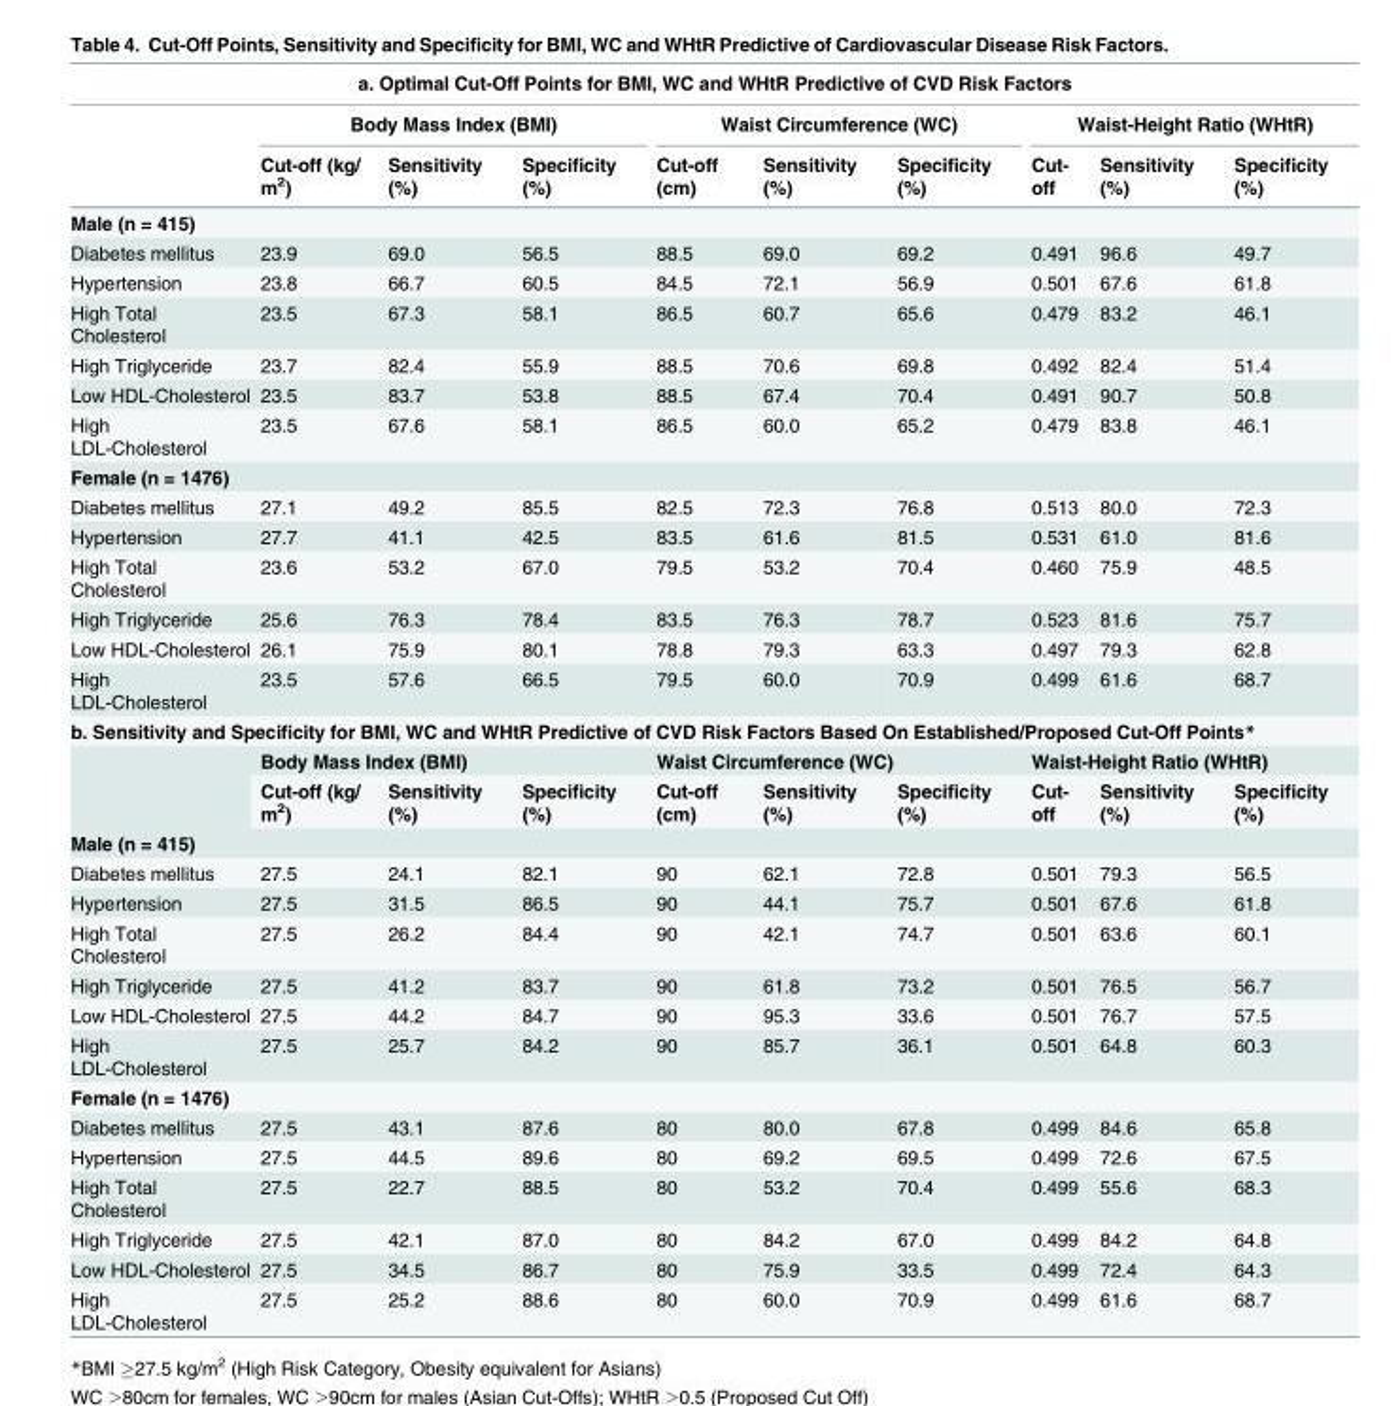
<table><thead><tr><td colspan="10">a. Optimal Cut-Off Points for BMI, WC and WHtR Predictive of CVD Risk Factors</td></tr><tr><td rowspan="2"></td><td colspan="3">Body Mass Index (BMI)</td><td colspan="3">Waist Circumference (WC)</td><td colspan="3">Waist-Height Ratio (WHtR)</td></tr><tr><td>Cut-off (kg/ m<sup>2</sup>)</td><td>Sensitivity (%)</td><td>Specificity (%)</td><td>Cut-off (cm)</td><td>Sensitivity (%)</td><td>Specificity (%)</td><td>Cut- off</td><td>Sensitivity (%)</td><td>Specificity (%)</td></tr></thead><tbody><tr><td colspan="10">Male (n = 415)</td></tr><tr><td>Diabetes mellitus</td><td>23.9</td><td>69.0</td><td>56.5</td><td>88.5</td><td>69.0</td><td>69.2</td><td>0.491</td><td>96.6</td><td>49.7</td></tr><tr><td>Hypertension</td><td>23.8</td><td>66.7</td><td>60.5</td><td>84.5</td><td>72.1</td><td>56.9</td><td>0.501</td><td>67.6</td><td>61.8</td></tr><tr><td>High Total Cholesterol</td><td>23.5</td><td>67.3</td><td>58.1</td><td>86.5</td><td>60.7</td><td>65.6</td><td>0.479</td><td>83.2</td><td>46.1</td></tr><tr><td>High Triglyceride</td><td>23.7</td><td>82.4</td><td>55.9</td><td>88.5</td><td>70.6</td><td>69.8</td><td>0.492</td><td>82.4</td><td>51.4</td></tr><tr><td>Low HDL-Cholesterol</td><td>23.5</td><td>83.7</td><td>53.8</td><td>88.5</td><td>67.4</td><td>70.4</td><td>0.491</td><td>90.7</td><td>50.8</td></tr><tr><td>High LDL-Cholesterol</td><td>23.5</td><td>67.6</td><td>58.1</td><td>86.5</td><td>60.0</td><td>65.2</td><td>0.479</td><td>83.8</td><td>46.1</td></tr><tr><td colspan="10">Female (n = 1476)</td></tr><tr><td>Diabetes mellitus</td><td>27.1</td><td>49.2</td><td>85.5</td><td>82.5</td><td>72.3</td><td>76.8</td><td>0.513</td><td>80.0</td><td>72.3</td></tr><tr><td>Hypertension</td><td>27.7</td><td>41.1</td><td>42.5</td><td>83.5</td><td>61.6</td><td>81.5</td><td>0.531</td><td>61.0</td><td>81.6</td></tr><tr><td>High Total Cholesterol</td><td>23.6</td><td>53.2</td><td>67.0</td><td>79.5</td><td>53.2</td><td>70.4</td><td>0.460</td><td>75.9</td><td>48.5</td></tr><tr><td>High Triglyceride</td><td>25.6</td><td>76.3</td><td>78.4</td><td>83.5</td><td>76.3</td><td>78.7</td><td>0.523</td><td>81.6</td><td>75.7</td></tr><tr><td>Low HDL-Cholesterol</td><td>26.1</td><td>75.9</td><td>80.1</td><td>78.8</td><td>79.3</td><td>63.3</td><td>0.497</td><td>79.3</td><td>62.8</td></tr><tr><td>High LDL-Cholesterol</td><td>23.5</td><td>57.6</td><td>66.5</td><td>79.5</td><td>60.0</td><td>70.9</td><td>0.499</td><td>61.6</td><td>68.7</td></tr><tr><td colspan="10">b. Sensitivity and Specificity for BMI, WC and WHtR Predictive of CVD Risk Factors Based On Established/Proposed Cut-Off Points*</td></tr><tr><td rowspan="2"></td><td colspan="3">Body Mass Index (BMI)</td><td colspan="3">Waist Circumference (WC)</td><td colspan="3">Waist-Height Ratio (WHtR)</td></tr><tr><td>Cut-off (kg/ m<sup>2</sup>)</td><td>Sensitivity (%)</td><td>Specificity (%)</td><td>Cut-off (cm)</td><td>Sensitivity (%)</td><td>Specificity (%)</td><td>Cut- off</td><td>Sensitivity (%)</td><td>Specificity (%)</td></tr><tr><td colspan="10">Male (n = 415)</td></tr><tr><td>Diabetes mellitus</td><td>27.5</td><td>24.1</td><td>82.1</td><td>90</td><td>62.1</td><td>72.8</td><td>0.501</td><td>79.3</td><td>56.5</td></tr><tr><td>Hypertension</td><td>27.5</td><td>31.5</td><td>86.5</td><td>90</td><td>44.1</td><td>75.7</td><td>0.501</td><td>67.6</td><td>61.8</td></tr><tr><td>High Total Cholesterol</td><td>27.5</td><td>26.2</td><td>84.4</td><td>90</td><td>42.1</td><td>74.7</td><td>0.501</td><td>63.6</td><td>60.1</td></tr><tr><td>High Triglyceride</td><td>27.5</td><td>41.2</td><td>83.7</td><td>90</td><td>61.8</td><td>73.2</td><td>0.501</td><td>76.5</td><td>56.7</td></tr><tr><td>Low HDL-Cholesterol</td><td>27.5</td><td>44.2</td><td>84.7</td><td>90</td><td>95.3</td><td>33.6</td><td>0.501</td><td>76.7</td><td>57.5</td></tr><tr><td>High LDL-Cholesterol</td><td>27.5</td><td>25.7</td><td>84.2</td><td>90</td><td>85.7</td><td>36.1</td><td>0.501</td><td>64.8</td><td>60.3</td></tr><tr><td colspan="10">Female (n = 1476)</td></tr><tr><td>Diabetes mellitus</td><td>27.5</td><td>43.1</td><td>87.6</td><td>80</td><td>80.0</td><td>67.8</td><td>0.499</td><td>84.6</td><td>65.8</td></tr><tr><td>Hypertension</td><td>27.5</td><td>44.5</td><td>89.6</td><td>80</td><td>69.2</td><td>69.5</td><td>0.499</td><td>72.6</td><td>67.5</td></tr><tr><td>High Total Cholesterol</td><td>27.5</td><td>22.7</td><td>88.5</td><td>80</td><td>53.2</td><td>70.4</td><td>0.499</td><td>55.6</td><td>68.3</td></tr><tr><td>High Triglyceride</td><td>27.5</td><td>42.1</td><td>87.0</td><td>80</td><td>84.2</td><td>67.0</td><td>0.499</td><td>84.2</td><td>64.8</td></tr><tr><td>Low HDL-Cholesterol</td><td>27.5</td><td>34.5</td><td>86.7</td><td>80</td><td>75.9</td><td>33.5</td><td>0.499</td><td>72.4</td><td>64.3</td></tr><tr><td>High LDL-Cholesterol</td><td>27.5</td><td>25.2</td><td>88.6</td><td>80</td><td>60.0</td><td>70.9</td><td>0.499</td><td>61.6</td><td>68.7</td></tr></tbody></table>